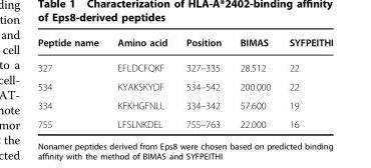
<table><thead><tr><td>Peptide name</td><td>Amino acid</td><td>Position</td><td>BIMAS</td><td>SYFPEITHI</td></tr></thead><tbody><tr><td>327</td><td>EFLDCFQKF</td><td>327–335</td><td>28.512</td><td>22</td></tr><tr><td>534</td><td>KYAKSKYDF</td><td>534–542</td><td>200.000</td><td>22</td></tr><tr><td>334</td><td>KFKHGFNLL</td><td>334–342</td><td>57.600</td><td>19</td></tr><tr><td>755</td><td>LFSLNKDEL</td><td>755–763</td><td>22.000</td><td>16</td></tr></tbody></table>